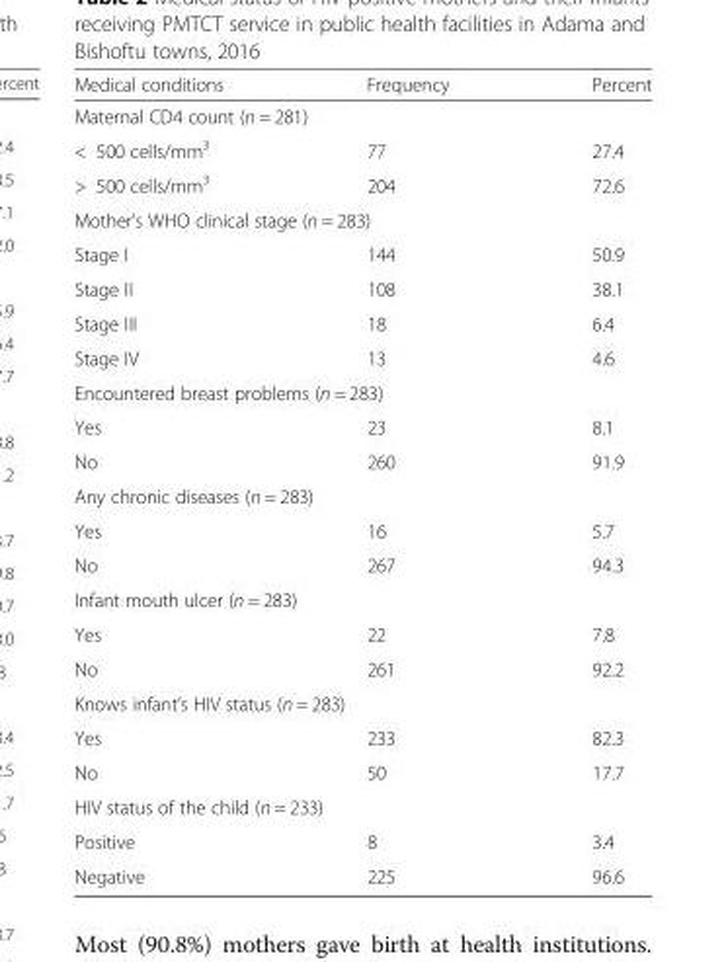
<table><thead><tr><td>Medical conditions</td><td>Frequency</td><td>Percent</td></tr></thead><tbody><tr><td colspan="3">Maternal CD4 count (n = 281)</td></tr><tr><td>&lt; 500 cells/mm<sup>3</sup></td><td>77</td><td>27.4</td></tr><tr><td>&gt; 500 cells/mm<sup>3</sup></td><td>204</td><td>72.6</td></tr><tr><td colspan="3">Mother’s WHO clinical stage (n = 283)</td></tr><tr><td>Stage I</td><td>144</td><td>50.9</td></tr><tr><td>Stage II</td><td>108</td><td>38.1</td></tr><tr><td>Stage III</td><td>18</td><td>6.4</td></tr><tr><td>Stage IV</td><td>13</td><td>4.6</td></tr><tr><td colspan="3">Encountered breast problems (n = 283)</td></tr><tr><td>Yes</td><td>23</td><td>8.1</td></tr><tr><td>No</td><td>260</td><td>91.9</td></tr><tr><td colspan="3">Any chronic diseases (n = 283)</td></tr><tr><td>Yes</td><td>16</td><td>5.7</td></tr><tr><td>No</td><td>267</td><td>94.3</td></tr><tr><td colspan="3">Infant mouth ulcer (n = 283)</td></tr><tr><td>Yes</td><td>22</td><td>7.8</td></tr><tr><td>No</td><td>261</td><td>92.2</td></tr><tr><td colspan="3">Knows infant’s HIV status (n = 283)</td></tr><tr><td>Yes</td><td>233</td><td>82.3</td></tr><tr><td>No</td><td>50</td><td>17.7</td></tr><tr><td colspan="3">HIV status of the child (n = 233)</td></tr><tr><td>Positive</td><td>8</td><td>3.4</td></tr><tr><td>Negative</td><td>225</td><td>96.6</td></tr></tbody></table>